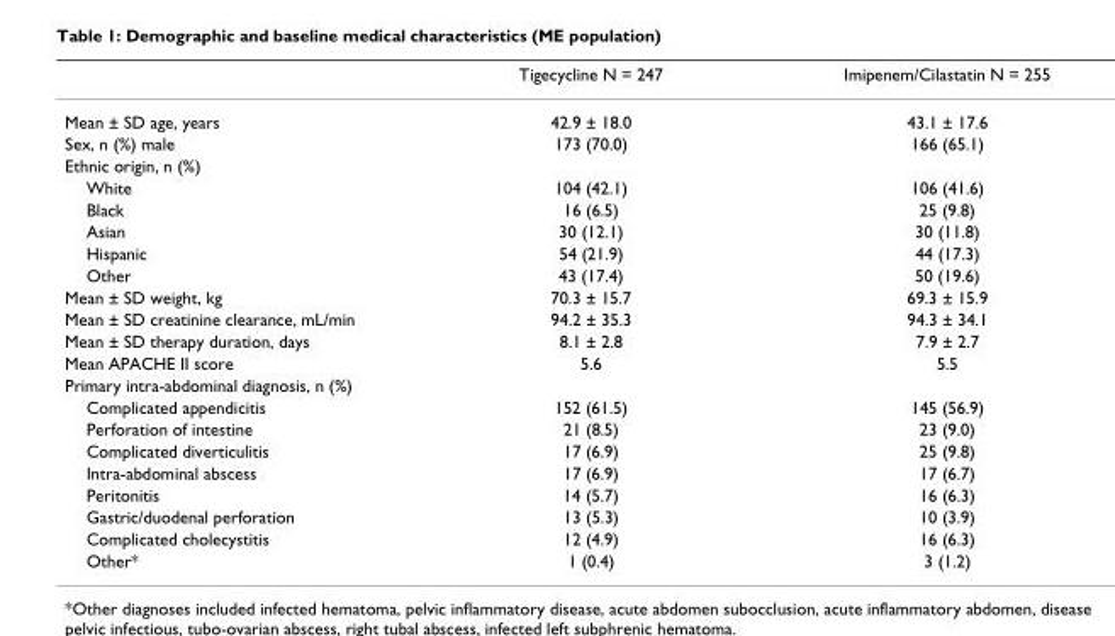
<table><thead><tr><td></td><td>Tigecycline N = 247</td><td>Imipenem/Cilastatin N = 255</td></tr></thead><tbody><tr><td>Mean ± SD age, years</td><td>42.9 ± 18.0</td><td>43.1 ± 17.6</td></tr><tr><td>Sex, n (%) male</td><td>173 (70.0)</td><td>166 (65.1)</td></tr><tr><td colspan="3">Ethnic origin, n (%)</td></tr><tr><td>White</td><td>104 (42.1)</td><td>106 (41.6)</td></tr><tr><td>Black</td><td>16 (6.5)</td><td>25 (9.8)</td></tr><tr><td>Asian</td><td>30 (12.1)</td><td>30 (11.8)</td></tr><tr><td>Hispanic</td><td>54 (21.9)</td><td>44 (17.3)</td></tr><tr><td>Other</td><td>43 (17.4)</td><td>50 (19.6)</td></tr><tr><td>Mean ± SD weight, kg</td><td>70.3 ± 15.7</td><td>69.3 ± 15.9</td></tr><tr><td>Mean ± SD creatinine clearance, mL/min</td><td>94.2 ± 35.3</td><td>94.3 ± 34.1</td></tr><tr><td>Mean ± SD therapy duration, days</td><td>8.1 ± 2.8</td><td>7.9 ± 2.7</td></tr><tr><td>Mean APACHE II score</td><td>5.6</td><td>5.5</td></tr><tr><td colspan="3">Primary intra-abdominal diagnosis, n (%)</td></tr><tr><td>Complicated appendicitis</td><td>152 (61.5)</td><td>145 (56.9)</td></tr><tr><td>Perforation of intestine</td><td>21 (8.5)</td><td>23 (9.0)</td></tr><tr><td>Complicated diverticulitis</td><td>17 (6.9)</td><td>25 (9.8)</td></tr><tr><td>Intra-abdominal abscess</td><td>17 (6.9)</td><td>17 (6.7)</td></tr><tr><td>Peritonitis</td><td>14 (5.7)</td><td>16 (6.3)</td></tr><tr><td>Gastric/duodenal perforation</td><td>13 (5.3)</td><td>10 (3.9)</td></tr><tr><td>Complicated cholecystitis</td><td>12 (4.9)</td><td>16 (6.3)</td></tr><tr><td>Other*</td><td>1 (0.4)</td><td>3 (1.2)</td></tr></tbody></table>